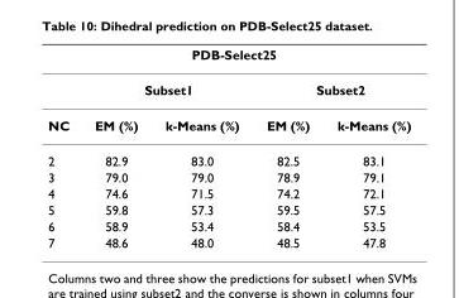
<table><thead><tr><td colspan="5">PDB-Select25</td></tr><tr><td rowspan="2">NC</td><td colspan="2">Subset1</td><td colspan="2">Subset2</td></tr><tr><td>EM (%)</td><td>k-Means (%)</td><td>EM (%)</td><td>k-Means (%)</td></tr></thead><tbody><tr><td>2</td><td>82.9</td><td>83.0</td><td>82.5</td><td>83.1</td></tr><tr><td>3</td><td>79.0</td><td>79.0</td><td>78.9</td><td>79.1</td></tr><tr><td>4</td><td>74.6</td><td>71.5</td><td>74.2</td><td>72.1</td></tr><tr><td>5</td><td>59.8</td><td>57.3</td><td>59.5</td><td>57.5</td></tr><tr><td>6</td><td>58.9</td><td>53.4</td><td>58.4</td><td>53.5</td></tr><tr><td>7</td><td>48.6</td><td>48.0</td><td>48.5</td><td>47.8</td></tr></tbody></table>